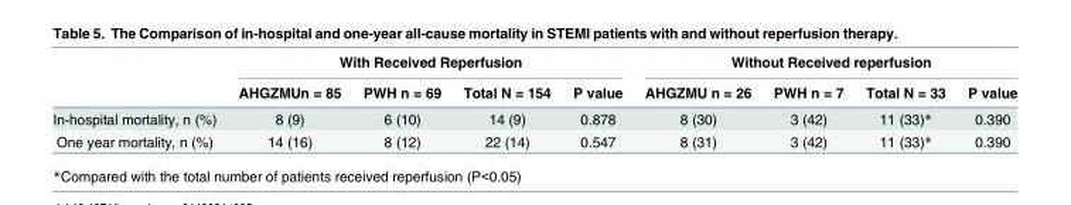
<table><thead><tr><td rowspan="2"></td><td colspan="4">With Received Reperfusion</td><td colspan="4">Without Received reperfusion</td></tr><tr><td>AHGZMUn = 85</td><td>PWH n = 69</td><td>Total N = 154</td><td>P value</td><td>AHGZMU n = 26</td><td>PWH n = 7</td><td>Total N = 33</td><td>P value</td></tr></thead><tbody><tr><td>In-hospital mortality, n (%)</td><td>8 (9)</td><td>6 (10)</td><td>14 (9)</td><td>0.878</td><td>8 (30)</td><td>3 (42)</td><td>11 (33)*</td><td>0.390</td></tr><tr><td>One year mortality, n (%)</td><td>14 (16)</td><td>8 (12)</td><td>22 (14)</td><td>0.547</td><td>8 (31)</td><td>3 (42)</td><td>11 (33)*</td><td>0.390</td></tr></tbody></table>